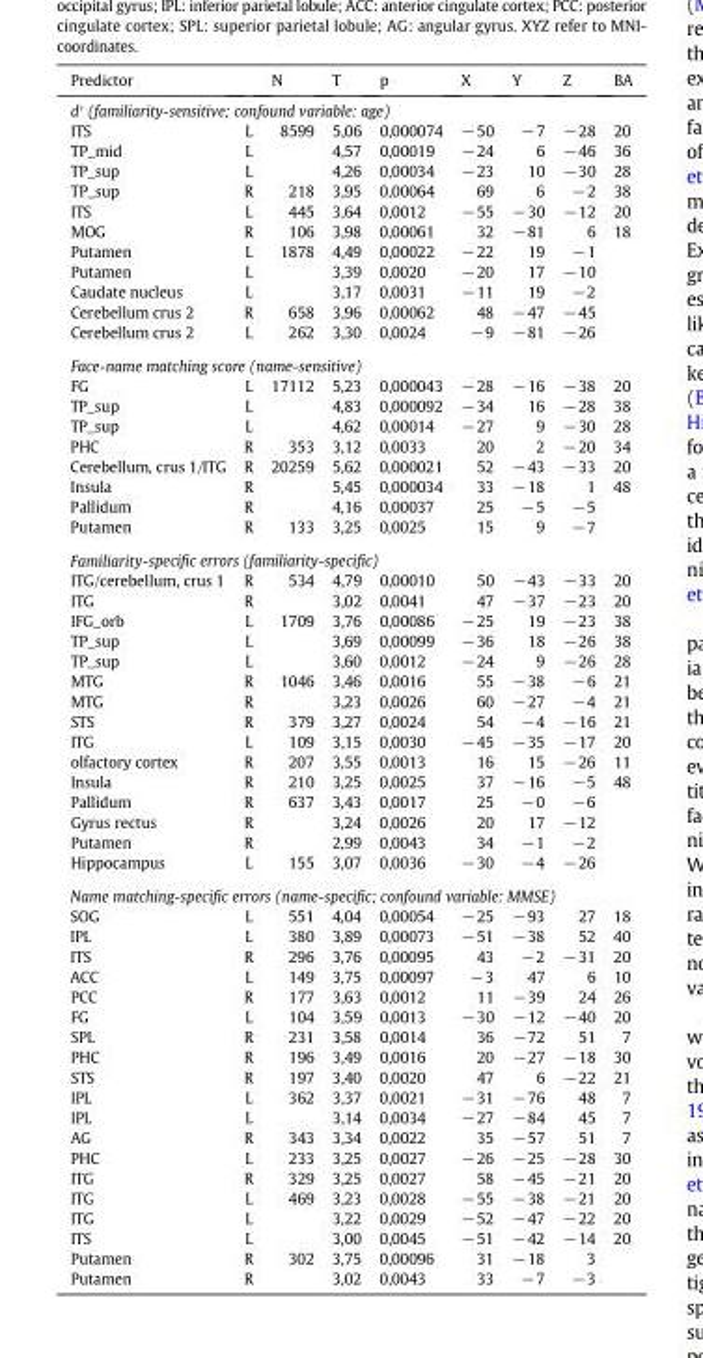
<table><thead><tr><td>Predictor</td><td></td><td>N</td><td>T</td><td>p</td><td>X</td><td>Y</td><td>Z</td><td>BA</td></tr></thead><tbody><tr><td colspan="9">d′ (familiarity-sensitive; confound variable: age)</td></tr><tr><td>ITS</td><td>L</td><td>8599</td><td>5,06</td><td>0,000074</td><td>−50</td><td>−7</td><td>−28</td><td>20</td></tr><tr><td>TP_mid</td><td>L</td><td></td><td>4,57</td><td>0,00019</td><td>−24</td><td>6</td><td>−46</td><td>36</td></tr><tr><td>TP_sup</td><td>L</td><td></td><td>4,26</td><td>0,00034</td><td>−23</td><td>10</td><td>−30</td><td>28</td></tr><tr><td>TP_sup</td><td>R</td><td>218</td><td>3,95</td><td>0,00064</td><td>69</td><td>6</td><td>−2</td><td>38</td></tr><tr><td>ITS</td><td>L</td><td>445</td><td>3,64</td><td>0,0012</td><td>−55</td><td>−30</td><td>−12</td><td>20</td></tr><tr><td>MOG</td><td>R</td><td>106</td><td>3,98</td><td>0,00061</td><td>32</td><td>−81</td><td>6</td><td>18</td></tr><tr><td>Putamen</td><td>L</td><td>1878</td><td>4,49</td><td>0,00022</td><td>−22</td><td>19</td><td>−1</td><td></td></tr><tr><td>Putamen</td><td>L</td><td></td><td>3,39</td><td>0,0020</td><td>−20</td><td>17</td><td>−10</td><td></td></tr><tr><td>Caudate nucleus</td><td>L</td><td></td><td>3,17</td><td>0,0031</td><td>−11</td><td>19</td><td>−2</td><td></td></tr><tr><td>Cerebellum crus 2</td><td>R</td><td>658</td><td>3,96</td><td>0,00062</td><td>48</td><td>−47</td><td>−45</td><td></td></tr><tr><td>Cerebellum crus 2</td><td>L</td><td>262</td><td>3,30</td><td>0,0024</td><td>−9</td><td>−81</td><td>−26</td><td></td></tr><tr><td colspan="9">Face-name matching score (name-sensitive)</td></tr><tr><td>FG</td><td>L</td><td>17112</td><td>5,23</td><td>0,000043</td><td>−28</td><td>−16</td><td>−38</td><td>20</td></tr><tr><td>TP_sup</td><td>L</td><td></td><td>4,83</td><td>0,000092</td><td>−34</td><td>16</td><td>−28</td><td>38</td></tr><tr><td>TP_sup</td><td>L</td><td></td><td>4,62</td><td>0,00014</td><td>−27</td><td>9</td><td>−30</td><td>28</td></tr><tr><td>PHC</td><td>R</td><td>353</td><td>3,12</td><td>0,0033</td><td>20</td><td>2</td><td>−20</td><td>34</td></tr><tr><td>Cerebellum, crus 1/ITG</td><td>R</td><td>20259</td><td>5,62</td><td>0,000021</td><td>52</td><td>−43</td><td>−33</td><td>20</td></tr><tr><td>Insula</td><td>R</td><td></td><td>5,45</td><td>0,000034</td><td>33</td><td>−18</td><td>1</td><td>48</td></tr><tr><td>Pallidum</td><td>R</td><td></td><td>4,16</td><td>0,00037</td><td>25</td><td>−5</td><td>−5</td><td></td></tr><tr><td>Putamen</td><td>R</td><td>133</td><td>3,25</td><td>0,0025</td><td>15</td><td>9</td><td>−7</td><td></td></tr><tr><td colspan="9">Familiarity-specific errors (familiarity-specific)</td></tr><tr><td>ITG/cerebellum, crus 1</td><td>R</td><td>534</td><td>4,79</td><td>0,00010</td><td>50</td><td>−43</td><td>−33</td><td>20</td></tr><tr><td>ITG</td><td>R</td><td></td><td>3,02</td><td>0,0041</td><td>47</td><td>−37</td><td>−23</td><td>20</td></tr><tr><td>IFG_orb</td><td>L</td><td>1709</td><td>3,76</td><td>0,00086</td><td>−25</td><td>19</td><td>−23</td><td>38</td></tr><tr><td>TP_sup</td><td>L</td><td></td><td>3,69</td><td>0,00099</td><td>−36</td><td>18</td><td>−26</td><td>38</td></tr><tr><td>TP_sup</td><td>L</td><td></td><td>3,60</td><td>0,0012</td><td>−24</td><td>9</td><td>−26</td><td>28</td></tr><tr><td>MTG</td><td>R</td><td>1046</td><td>3,46</td><td>0,0016</td><td>55</td><td>−38</td><td>−6</td><td>21</td></tr><tr><td>MTG</td><td>R</td><td></td><td>3,23</td><td>0,0026</td><td>60</td><td>−27</td><td>−4</td><td>21</td></tr><tr><td>STS</td><td>R</td><td>379</td><td>3,27</td><td>0,0024</td><td>54</td><td>−4</td><td>−16</td><td>21</td></tr><tr><td>ITG</td><td>L</td><td>109</td><td>3,15</td><td>0,0030</td><td>−45</td><td>−35</td><td>−17</td><td>20</td></tr><tr><td>olfactory cortex</td><td>R</td><td>207</td><td>3,55</td><td>0,0013</td><td>16</td><td>15</td><td>−26</td><td>11</td></tr><tr><td>Insula</td><td>R</td><td>210</td><td>3,25</td><td>0,0025</td><td>37</td><td>−16</td><td>−5</td><td>48</td></tr><tr><td>Pallidum</td><td>R</td><td>637</td><td>3,43</td><td>0,0017</td><td>25</td><td>−0</td><td>−6</td><td></td></tr><tr><td>Gyrus rectus</td><td>R</td><td></td><td>3,24</td><td>0,0026</td><td>20</td><td>17</td><td>−12</td><td></td></tr><tr><td>Putamen</td><td>R</td><td></td><td>2,99</td><td>0,0043</td><td>34</td><td>−1</td><td>−2</td><td></td></tr><tr><td>Hippocampus</td><td>L</td><td>155</td><td>3,07</td><td>0,0036</td><td>−30</td><td>−4</td><td>−26</td><td></td></tr><tr><td colspan="9">Name matching-specific errors (name-specific; confound variable: MMSE)</td></tr><tr><td>SOG</td><td>L</td><td>551</td><td>4,04</td><td>0,00054</td><td>−25</td><td>−93</td><td>27</td><td>18</td></tr><tr><td>IPL</td><td>L</td><td>380</td><td>3,89</td><td>0,00073</td><td>−51</td><td>−38</td><td>52</td><td>40</td></tr><tr><td>ITS</td><td>R</td><td>296</td><td>3,76</td><td>0,00095</td><td>43</td><td>−2</td><td>−31</td><td>20</td></tr><tr><td>ACC</td><td>L</td><td>149</td><td>3,75</td><td>0,00097</td><td>−3</td><td>47</td><td>6</td><td>10</td></tr><tr><td>PCC</td><td>R</td><td>177</td><td>3,63</td><td>0,0012</td><td>11</td><td>−39</td><td>24</td><td>26</td></tr><tr><td>FG</td><td>L</td><td>104</td><td>3,59</td><td>0,0013</td><td>−30</td><td>−12</td><td>−40</td><td>20</td></tr><tr><td>SPL</td><td>R</td><td>231</td><td>3,58</td><td>0,0014</td><td>36</td><td>−72</td><td>51</td><td>7</td></tr><tr><td>PHC</td><td>R</td><td>196</td><td>3,49</td><td>0,0016</td><td>20</td><td>−27</td><td>−18</td><td>30</td></tr><tr><td>STS</td><td>R</td><td>197</td><td>3,40</td><td>0,0020</td><td>47</td><td>6</td><td>−22</td><td>21</td></tr><tr><td>IPL</td><td>L</td><td>362</td><td>3,37</td><td>0,0021</td><td>−31</td><td>−76</td><td>48</td><td>7</td></tr><tr><td>IPL</td><td>L</td><td></td><td>3,14</td><td>0,0034</td><td>−27</td><td>−84</td><td>45</td><td>7</td></tr><tr><td>AG</td><td>R</td><td>343</td><td>3,34</td><td>0,0022</td><td>35</td><td>−57</td><td>51</td><td>7</td></tr><tr><td>PHC</td><td>L</td><td>233</td><td>3,25</td><td>0,0027</td><td>−26</td><td>−25</td><td>−28</td><td>30</td></tr><tr><td>ITG</td><td>R</td><td>329</td><td>3,25</td><td>0,0027</td><td>58</td><td>−45</td><td>−21</td><td>20</td></tr><tr><td>ITG</td><td>L</td><td>469</td><td>3,23</td><td>0,0028</td><td>−55</td><td>−38</td><td>−21</td><td>20</td></tr><tr><td>ITG</td><td>L</td><td></td><td>3,22</td><td>0,0029</td><td>−52</td><td>−47</td><td>−22</td><td>20</td></tr><tr><td>ITS</td><td>L</td><td></td><td>3,00</td><td>0,0045</td><td>−51</td><td>−42</td><td>−14</td><td>20</td></tr><tr><td>Putamen</td><td>R</td><td>302</td><td>3,75</td><td>0,00096</td><td>31</td><td>−18</td><td>3</td><td></td></tr><tr><td>Putamen</td><td>R</td><td></td><td>3,02</td><td>0,0043</td><td>33</td><td>−7</td><td>−3</td><td></td></tr></tbody></table>